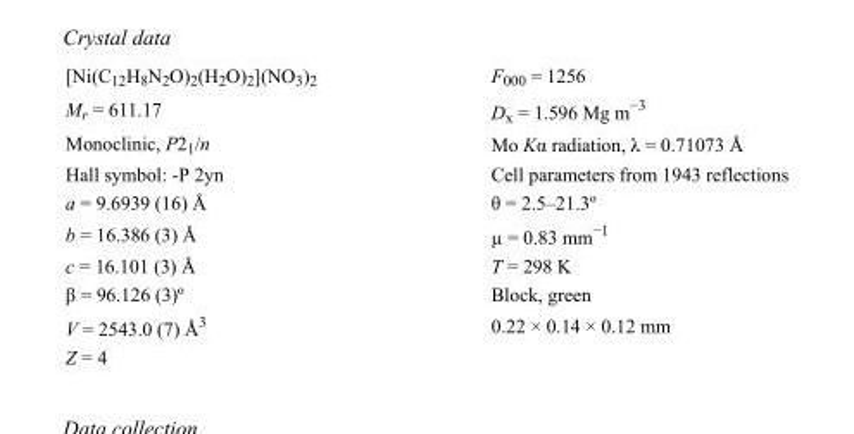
<table><tbody><tr><td>[Ni(C<sub>12</sub>H<sub>8</sub>N<sub>2</sub>O)<sub>2</sub>(H<sub>2</sub>O)<sub>2</sub>](NO<sub>3</sub>)<sub>2</sub></td><td>F000 = 1256</td></tr><tr><td>M<sub>r</sub> = 611.17</td><td>D<sub>x</sub> = 1.596 Mg m<sup>−3</sup></td></tr><tr><td>Monoclinic, P2<sub>1</sub>/n</td><td>Mo Kα radiation, λ = 0.71073 Å</td></tr><tr><td>Hall symbol: -P 2yn</td><td>Cell parameters from 1943 reflections</td></tr><tr><td>a = 9.6939 (16) Å</td><td>θ = 2.5–21.3º</td></tr><tr><td>b = 16.386 (3) Å</td><td>µ = 0.83 mm<sup>−1</sup></td></tr><tr><td>c = 16.101 (3) Å</td><td>T = 298 K</td></tr><tr><td>β = 96.126 (3)º</td><td>Block, green</td></tr><tr><td>V = 2543.0 (7) Å<sup>3</sup></td><td>0.22 × 0.14 × 0.12 mm</td></tr><tr><td>Z = 4</td><td></td></tr></tbody></table>